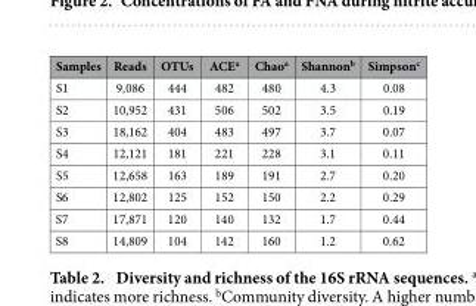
<table><thead><tr><td>Samples</td><td>Reads</td><td>OTUs</td><td>ACE<sup>a</sup></td><td>Chao<sup>a</sup></td><td>Shannon<sup>b</sup></td><td>Simpson<sup>c</sup></td></tr></thead><tbody><tr><td>S1</td><td>9,086</td><td>444</td><td>482</td><td>480</td><td>4.3</td><td>0.08</td></tr><tr><td>S2</td><td>10,952</td><td>431</td><td>506</td><td>502</td><td>3.5</td><td>0.19</td></tr><tr><td>S3</td><td>18,162</td><td>404</td><td>483</td><td>497</td><td>3.7</td><td>0.07</td></tr><tr><td>S4</td><td>12,121</td><td>181</td><td>221</td><td>228</td><td>3.1</td><td>0.11</td></tr><tr><td>S5</td><td>12,658</td><td>163</td><td>189</td><td>191</td><td>2.7</td><td>0.20</td></tr><tr><td>S6</td><td>12,802</td><td>125</td><td>152</td><td>150</td><td>2.2</td><td>0.29</td></tr><tr><td>S7</td><td>17,871</td><td>120</td><td>140</td><td>132</td><td>1.7</td><td>0.44</td></tr><tr><td>S8</td><td>14,809</td><td>104</td><td>142</td><td>160</td><td>1.2</td><td>0.62</td></tr></tbody></table>